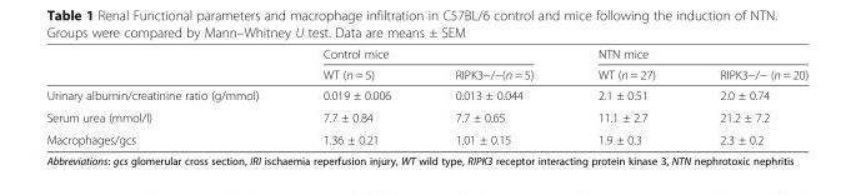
<table><thead><tr><td rowspan="2"></td><td colspan="2">Control mice</td><td colspan="2">NTN mice</td></tr><tr><td>WT (n = 5)</td><td>RIPK3−/−(n = 5)</td><td>WT (n = 27)</td><td>RIPK3−/− (n = 20)</td></tr></thead><tbody><tr><td>Urinary albumin/creatinine ratio (g/mmol)</td><td>0.019 ± 0.006</td><td>0.013 ± 0.044</td><td>2.1 ± 0.51</td><td>2.0 ± 0.74</td></tr><tr><td>Serum urea (mmol/l)</td><td>7.7 ± 0.84</td><td>7.7 ± 0.65</td><td>11.1 ± 2.7</td><td>21.2 ± 7.2</td></tr><tr><td>Macrophages/gcs</td><td>1.36 ± 0.21</td><td>1.01 ± 0.15</td><td>1.9 ± 0.3</td><td>2.3 ± 0.2</td></tr></tbody></table>